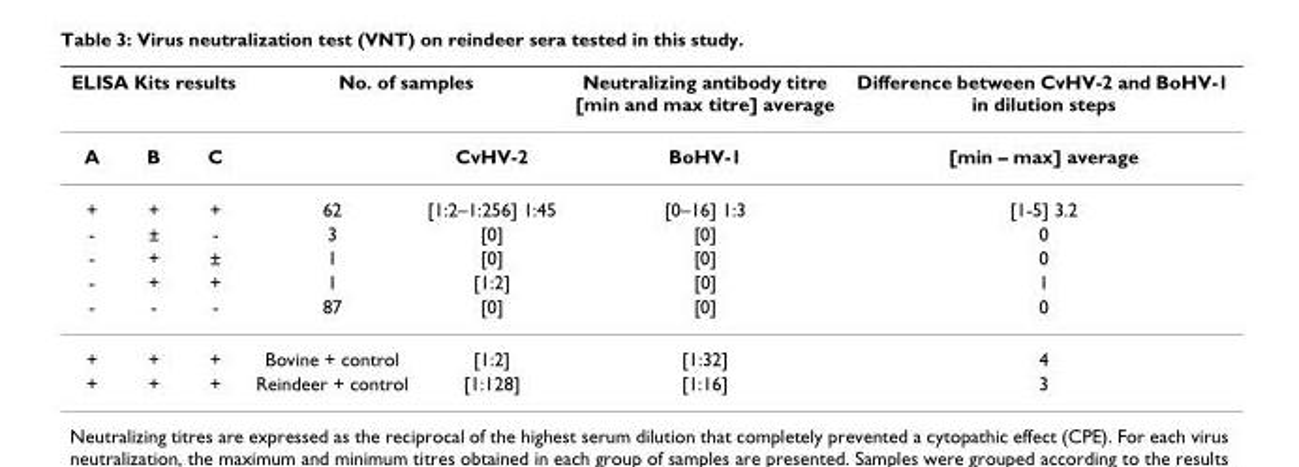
<table><thead><tr><td colspan="3">ELISA Kits results</td><td colspan="2">No. of samples</td><td rowspan="2">Neutralizing antibody titre [min and max titre] average BoHV-1</td><td rowspan="2">Difference between CvHV-2 and BoHV-1 in dilution steps [min – max] average</td></tr><tr><td>A</td><td>B</td><td>C</td><td></td><td>CvHV-2</td></tr></thead><tbody><tr><td>+</td><td>+</td><td>+</td><td>62</td><td>[1:2–1:256] 1:45</td><td>[0–16] 1:3</td><td>[1-5] 3.2</td></tr><tr><td>-</td><td>±</td><td>-</td><td>3</td><td>[0]</td><td>[0]</td><td>0</td></tr><tr><td>-</td><td>+</td><td>±</td><td>1</td><td>[0]</td><td>[0]</td><td>0</td></tr><tr><td>-</td><td>+</td><td>+</td><td>1</td><td>[1:2]</td><td>[0]</td><td>1</td></tr><tr><td>-</td><td>-</td><td>-</td><td>87</td><td>[0]</td><td>[0]</td><td>0</td></tr><tr><td>+</td><td>+</td><td>+</td><td>Bovine + control</td><td>[1:2]</td><td>[1:32]</td><td>4</td></tr><tr><td>+</td><td>+</td><td>+</td><td>Reindeer + control</td><td>[1:128]</td><td>[1:16]</td><td>3</td></tr></tbody></table>